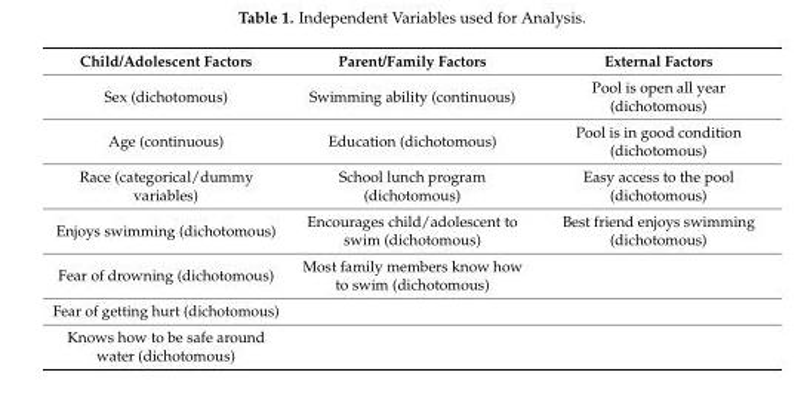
<table><thead><tr><td>Child/Adolescent Factors</td><td>Parent/Family Factors</td><td>External Factors</td></tr></thead><tbody><tr><td>Sex (dichotomous)</td><td>Swimming ability (continuous)</td><td>Pool is open all year (dichotomous)</td></tr><tr><td>Age (continuous)</td><td>Education (dichotomous)</td><td>Pool is in good condition (dichotomous)</td></tr><tr><td>Race (categorical/dummy variables)</td><td>School lunch program (dichotomous)</td><td>Easy access to the pool (dichotomous)</td></tr><tr><td>Enjoys swimming (dichotomous)</td><td>Encourages child/adolescent to swim (dichotomous)</td><td>Best friend enjoys swimming (dichotomous)</td></tr><tr><td>Fear of drowning (dichotomous)</td><td>Most family members know how to swim (dichotomous)</td><td></td></tr><tr><td colspan="3">Fear of getting hurt (dichotomous)</td></tr><tr><td>Knows how to be safe around water (dichotomous)</td><td></td><td></td></tr></tbody></table>